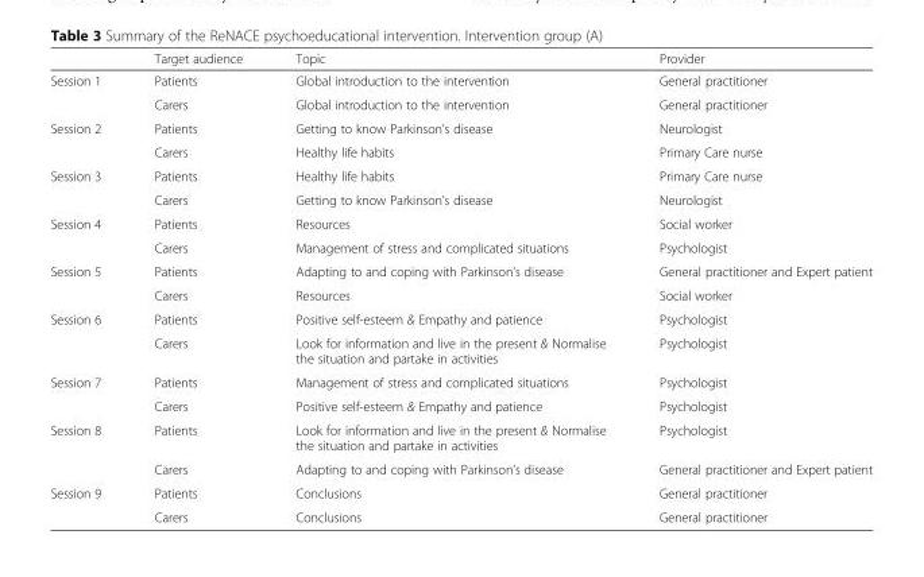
<table><thead><tr><td></td><td>Target audience</td><td>Topic</td><td>Provider</td></tr></thead><tbody><tr><td rowspan="2">Session 1</td><td>Patients</td><td>Global introduction to the intervention</td><td>General practitioner</td></tr><tr><td>Carers</td><td>Global introduction to the intervention</td><td>General practitioner</td></tr><tr><td rowspan="2">Session 2</td><td>Patients</td><td>Getting to know Parkinson’s disease</td><td>Neurologist</td></tr><tr><td>Carers</td><td>Healthy life habits</td><td>Primary Care nurse</td></tr><tr><td rowspan="2">Session 3</td><td>Patients</td><td>Healthy life habits</td><td>Primary Care nurse</td></tr><tr><td>Carers</td><td>Getting to know Parkinson’s disease</td><td>Neurologist</td></tr><tr><td rowspan="2">Session 4</td><td>Patients</td><td>Resources</td><td>Social worker</td></tr><tr><td>Carers</td><td>Management of stress and complicated situations</td><td>Psychologist</td></tr><tr><td rowspan="2">Session 5</td><td>Patients</td><td>Adapting to and coping with Parkinson’s disease</td><td>General practitioner and Expert patient</td></tr><tr><td>Carers</td><td>Resources</td><td>Social worker</td></tr><tr><td rowspan="2">Session 6</td><td>Patients</td><td>Positive self-esteem &amp; Empathy and patience</td><td>Psychologist</td></tr><tr><td>Carers</td><td>Look for information and live in the present &amp; Normalise the situation and partake in activities</td><td>Psychologist</td></tr><tr><td rowspan="2">Session 7</td><td>Patients</td><td>Management of stress and complicated situations</td><td>Psychologist</td></tr><tr><td>Carers</td><td>Positive self-esteem &amp; Empathy and patience</td><td>Psychologist</td></tr><tr><td rowspan="2">Session 8</td><td>Patients</td><td>Look for information and live in the present &amp; Normalise the situation and partake in activities</td><td>Psychologist</td></tr><tr><td>Carers</td><td>Adapting to and coping with Parkinson’s disease</td><td>General practitioner and Expert patient</td></tr><tr><td rowspan="2">Session 9</td><td>Patients</td><td>Conclusions</td><td>General practitioner</td></tr><tr><td>Carers</td><td>Conclusions</td><td>General practitioner</td></tr></tbody></table>